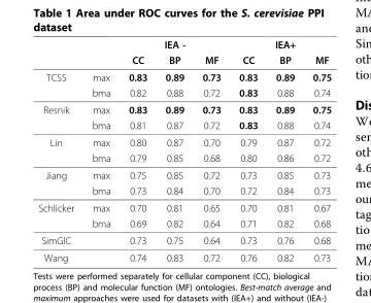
<table><thead><tr><td rowspan="2"></td><td rowspan="2"></td><td colspan="3">IEA -</td><td colspan="3">IEA+</td></tr><tr><td>CC</td><td>BP</td><td>MF</td><td>CC</td><td>BP</td><td>MF</td></tr></thead><tbody><tr><td rowspan="2">TCSS</td><td>max</td><td>0.83</td><td>0.89</td><td>0.73</td><td>0.83</td><td>0.89</td><td>0.75</td></tr><tr><td>bma</td><td>0.82</td><td>0.88</td><td>0.72</td><td>0.83</td><td>0.88</td><td>0.74</td></tr><tr><td rowspan="2">Resnik</td><td>max</td><td>0.83</td><td>0.89</td><td>0.73</td><td>0.83</td><td>0.89</td><td>0.75</td></tr><tr><td>bma</td><td>0.81</td><td>0.87</td><td>0.72</td><td>0.83</td><td>0.88</td><td>0.74</td></tr><tr><td rowspan="2">Lin</td><td>max</td><td>0.80</td><td>0.87</td><td>0.70</td><td>0.79</td><td>0.87</td><td>0.72</td></tr><tr><td>bma</td><td>0.79</td><td>0.85</td><td>0.68</td><td>0.80</td><td>0.86</td><td>0.72</td></tr><tr><td rowspan="2">Jiang</td><td>max</td><td>0.75</td><td>0.85</td><td>0.72</td><td>0.73</td><td>0.85</td><td>0.73</td></tr><tr><td>bma</td><td>0.73</td><td>0.84</td><td>0.70</td><td>0.72</td><td>0.84</td><td>0.73</td></tr><tr><td rowspan="2">Schlicker</td><td>max</td><td>0.70</td><td>0.81</td><td>0.65</td><td>0.70</td><td>0.81</td><td>0.67</td></tr><tr><td>bma</td><td>0.69</td><td>0.82</td><td>0.64</td><td>0.71</td><td>0.82</td><td>0.68</td></tr><tr><td>SimGIC</td><td></td><td>0.73</td><td>0.75</td><td>0.64</td><td>0.73</td><td>0.76</td><td>0.68</td></tr><tr><td>Wang</td><td></td><td>0.74</td><td>0.83</td><td>0.72</td><td>0.76</td><td>0.82</td><td>0.73</td></tr></tbody></table>